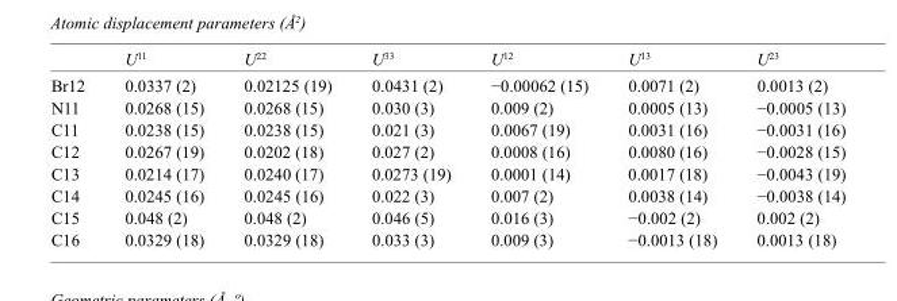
<table><thead><tr><td></td><td>U<sup>11</sup></td><td>U<sup>22</sup></td><td>U<sup>33</sup></td><td>U<sup>12</sup></td><td>U<sup>13</sup></td><td>U<sup>23</sup></td></tr></thead><tbody><tr><td>Br12</td><td>0.0337 (2)</td><td>0.02125 (19)</td><td>0.0431 (2)</td><td>−0.00062 (15)</td><td>0.0071 (2)</td><td>0.0013 (2)</td></tr><tr><td>N11</td><td>0.0268 (15)</td><td>0.0268 (15)</td><td>0.030 (3)</td><td>0.009 (2)</td><td>0.0005 (13)</td><td>−0.0005 (13)</td></tr><tr><td>C11</td><td>0.0238 (15)</td><td>0.0238 (15)</td><td>0.021 (3)</td><td>0.0067 (19)</td><td>0.0031 (16)</td><td>−0.0031 (16)</td></tr><tr><td>C12</td><td>0.0267 (19)</td><td>0.0202 (18)</td><td>0.027 (2)</td><td>0.0008 (16)</td><td>0.0080 (16)</td><td>−0.0028 (15)</td></tr><tr><td>C13</td><td>0.0214 (17)</td><td>0.0240 (17)</td><td>0.0273 (19)</td><td>0.0001 (14)</td><td>0.0017 (18)</td><td>−0.0043 (19)</td></tr><tr><td>C14</td><td>0.0245 (16)</td><td>0.0245 (16)</td><td>0.022 (3)</td><td>0.007 (2)</td><td>0.0038 (14)</td><td>−0.0038 (14)</td></tr><tr><td>C15</td><td>0.048 (2)</td><td>0.048 (2)</td><td>0.046 (5)</td><td>0.016 (3)</td><td>−0.002 (2)</td><td>0.002 (2)</td></tr><tr><td>C16</td><td>0.0329 (18)</td><td>0.0329 (18)</td><td>0.033 (3)</td><td>0.009 (3)</td><td>−0.0013 (18)</td><td>0.0013 (18)</td></tr></tbody></table>